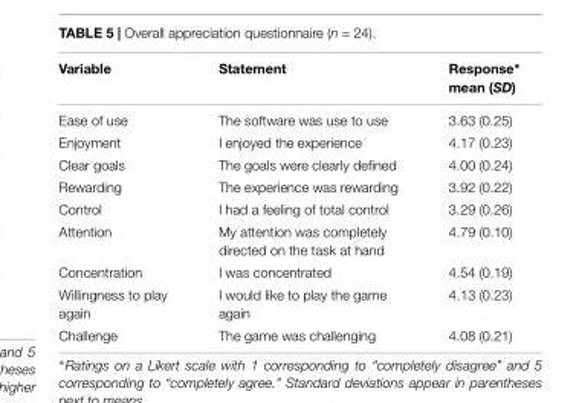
<table><thead><tr><td>Variable</td><td>Statement</td><td>Response∗ mean (SD)</td></tr></thead><tbody><tr><td>Ease of use</td><td>The software was use to use</td><td>3.63 (0.25)</td></tr><tr><td>Enjoyment</td><td>I enjoyed the experience</td><td>4.17 (0.23)</td></tr><tr><td>Clear goals</td><td>The goals were clearly defined</td><td>4.00 (0.24)</td></tr><tr><td>Rewarding</td><td>The experience was rewarding</td><td>3.92 (0.22)</td></tr><tr><td>Control</td><td>I had a feeling of total control</td><td>3.29 (0.26)</td></tr><tr><td>Attention</td><td>My attention was completely directed on the task at hand</td><td>4.79 (0.10)</td></tr><tr><td>Concentration</td><td>I was concentrated</td><td>4.54 (0.19)</td></tr><tr><td>Willingness to play again</td><td>I would like to play the game again</td><td>4.13 (0.23)</td></tr><tr><td>Challenge</td><td>The game was challenging</td><td>4.08 (0.21)</td></tr></tbody></table>